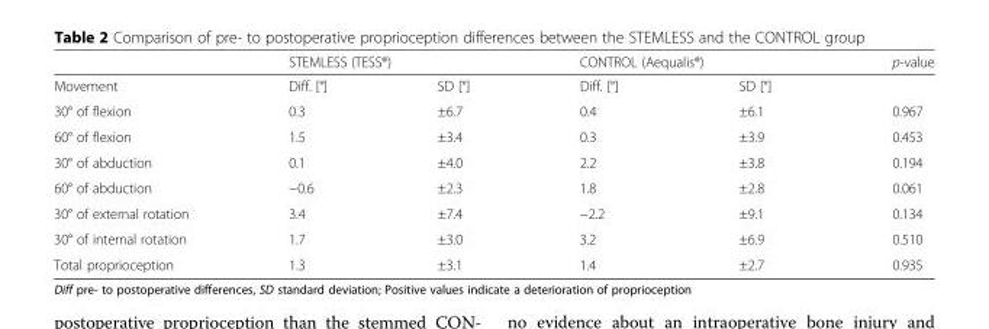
<table><thead><tr><td rowspan="2">Movement</td><td colspan="2">STEMLESS (TESS®)</td><td colspan="2">CONTROL (Aequalis®)</td><td rowspan="2">p-value</td></tr><tr><td>Diff. [°]</td><td>SD [°]</td><td>Diff. [°]</td><td>SD [°]</td></tr></thead><tbody><tr><td>30° of flexion</td><td>0.3</td><td>±6.7</td><td>0.4</td><td>±6.1</td><td>0.967</td></tr><tr><td>60° of flexion</td><td>1.5</td><td>±3.4</td><td>0.3</td><td>±3.9</td><td>0.453</td></tr><tr><td>30° of abduction</td><td>0.1</td><td>±4.0</td><td>2.2</td><td>±3.8</td><td>0.194</td></tr><tr><td>60° of abduction</td><td>−0.6</td><td>±2.3</td><td>1.8</td><td>±2.8</td><td>0.061</td></tr><tr><td>30° of external rotation</td><td>3.4</td><td>±7.4</td><td>−2.2</td><td>±9.1</td><td>0.134</td></tr><tr><td>30° of internal rotation</td><td>1.7</td><td>±3.0</td><td>3.2</td><td>±6.9</td><td>0.510</td></tr><tr><td>Total proprioception</td><td>1.3</td><td>±3.1</td><td>1.4</td><td>±2.7</td><td>0.935</td></tr></tbody></table>